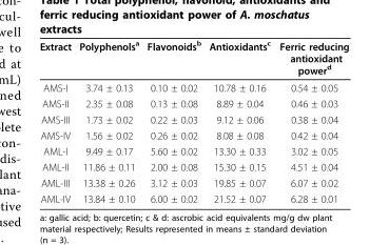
<table><thead><tr><td>Extract</td><td>Polyphenols<sup>a</sup></td><td>Flavonoids<sup>b</sup></td><td>Antioxidants<sup>c</sup></td><td>Ferric reducing antioxidant power<sup>d</sup></td></tr></thead><tbody><tr><td>AMS-I</td><td>3.74 ± 0.13</td><td>0.10 ± 0.02</td><td>10.78 ± 0.16</td><td>0.54 ± 0.05</td></tr><tr><td>AMS-II</td><td>2.35 ± 0.08</td><td>0.13 ± 0.08</td><td>8.89 ± 0.04</td><td>0.46 ± 0.03</td></tr><tr><td>AMS-III</td><td>1.73 ± 0.02</td><td>0.22 ± 0.03</td><td>9.12 ± 0.06</td><td>0.38 ± 0.04</td></tr><tr><td>AMS-IV</td><td>1.56 ± 0.02</td><td>0.26 ± 0.02</td><td>8.08 ± 0.08</td><td>0.42 ± 0.04</td></tr><tr><td>AML-I</td><td>9.49 ± 0.17</td><td>5.60 ± 0.02</td><td>13.30 ± 0.33</td><td>3.02 ± 0.05</td></tr><tr><td>AML-II</td><td>11.86 ± 0.11</td><td>2.00 ± 0.08</td><td>15.30 ± 0.15</td><td>4.51 ± 0.04</td></tr><tr><td>AML-III</td><td>13.38 ± 0.26</td><td>3.12 ± 0.03</td><td>19.85 ± 0.07</td><td>6.07 ± 0.02</td></tr><tr><td>AML-IV</td><td>13.84 ± 0.10</td><td>6.00 ± 0.02</td><td>21.52 ± 0.07</td><td>6.28 ± 0.01</td></tr></tbody></table>